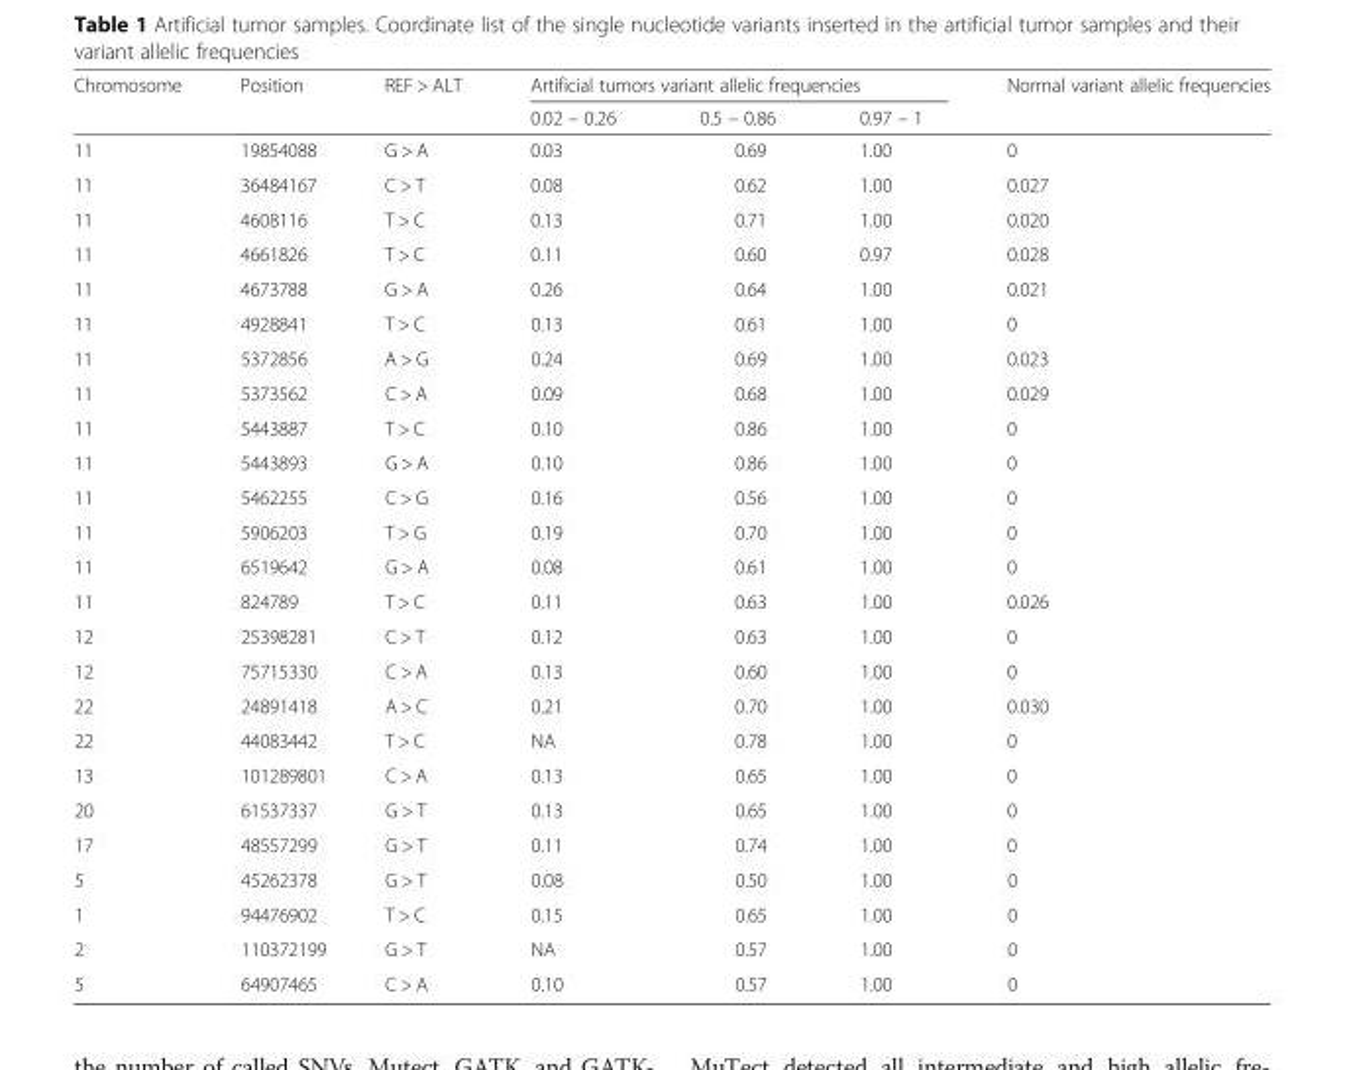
<table><thead><tr><td rowspan="2">Chromosome</td><td rowspan="2">Position</td><td rowspan="2">REF &gt; ALT</td><td colspan="3">Artificial tumors variant allelic frequencies</td><td rowspan="2">Normal variant allelic frequencies</td></tr><tr><td>0.02 – 0.26</td><td>0.5 – 0.86</td><td>0.97 – 1</td></tr></thead><tbody><tr><td>11</td><td>19854088</td><td>G &gt; A</td><td>0.03</td><td>0.69</td><td>1.00</td><td>0</td></tr><tr><td>11</td><td>36484167</td><td>C &gt; T</td><td>0.08</td><td>0.62</td><td>1.00</td><td>0.027</td></tr><tr><td>11</td><td>4608116</td><td>T &gt; C</td><td>0.13</td><td>0.71</td><td>1.00</td><td>0.020</td></tr><tr><td>11</td><td>4661826</td><td>T &gt; C</td><td>0.11</td><td>0.60</td><td>0.97</td><td>0.028</td></tr><tr><td>11</td><td>4673788</td><td>G &gt; A</td><td>0.26</td><td>0.64</td><td>1.00</td><td>0.021</td></tr><tr><td>11</td><td>4928841</td><td>T &gt; C</td><td>0.13</td><td>0.61</td><td>1.00</td><td>0</td></tr><tr><td>11</td><td>5372856</td><td>A &gt; G</td><td>0.24</td><td>0.69</td><td>1.00</td><td>0.023</td></tr><tr><td>11</td><td>5373562</td><td>C &gt; A</td><td>0.09</td><td>0.68</td><td>1.00</td><td>0.029</td></tr><tr><td>11</td><td>5443887</td><td>T &gt; C</td><td>0.10</td><td>0.86</td><td>1.00</td><td>0</td></tr><tr><td>11</td><td>5443893</td><td>G &gt; A</td><td>0.10</td><td>0.86</td><td>1.00</td><td>0</td></tr><tr><td>11</td><td>5462255</td><td>C &gt; G</td><td>0.16</td><td>0.56</td><td>1.00</td><td>0</td></tr><tr><td>11</td><td>5906203</td><td>T &gt; G</td><td>0.19</td><td>0.70</td><td>1.00</td><td>0</td></tr><tr><td>11</td><td>6519642</td><td>G &gt; A</td><td>0.08</td><td>0.61</td><td>1.00</td><td>0</td></tr><tr><td>11</td><td>824789</td><td>T &gt; C</td><td>0.11</td><td>0.63</td><td>1.00</td><td>0.026</td></tr><tr><td>12</td><td>25398281</td><td>C &gt; T</td><td>0.12</td><td>0.63</td><td>1.00</td><td>0</td></tr><tr><td>12</td><td>75715330</td><td>C &gt; A</td><td>0.13</td><td>0.60</td><td>1.00</td><td>0</td></tr><tr><td>22</td><td>24891418</td><td>A &gt; C</td><td>0.21</td><td>0.70</td><td>1.00</td><td>0.030</td></tr><tr><td>22</td><td>44083442</td><td>T &gt; C</td><td>NA</td><td>0.78</td><td>1.00</td><td>0</td></tr><tr><td>13</td><td>101289801</td><td>C &gt; A</td><td>0.13</td><td>0.65</td><td>1.00</td><td>0</td></tr><tr><td>20</td><td>61537337</td><td>G &gt; T</td><td>0.13</td><td>0.65</td><td>1.00</td><td>0</td></tr><tr><td>17</td><td>48557299</td><td>G &gt; T</td><td>0.11</td><td>0.74</td><td>1.00</td><td>0</td></tr><tr><td>5</td><td>45262378</td><td>G &gt; T</td><td>0.08</td><td>0.50</td><td>1.00</td><td>0</td></tr><tr><td>1</td><td>94476902</td><td>T &gt; C</td><td>0.15</td><td>0.65</td><td>1.00</td><td>0</td></tr><tr><td>2</td><td>110372199</td><td>G &gt; T</td><td>NA</td><td>0.57</td><td>1.00</td><td>0</td></tr><tr><td>5</td><td>64907465</td><td>C &gt; A</td><td>0.10</td><td>0.57</td><td>1.00</td><td>0</td></tr></tbody></table>